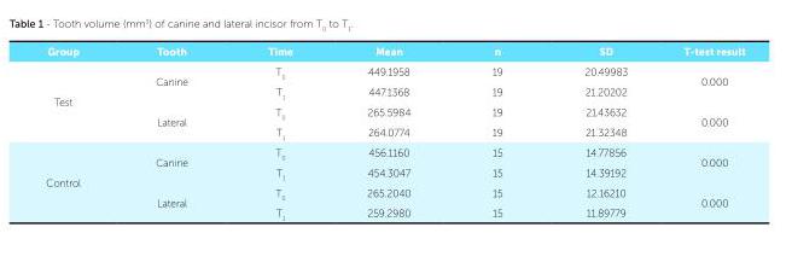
<table><thead><tr><td>Group</td><td>Tooth</td><td>Time</td><td>Mean</td><td>n</td><td>SD</td><td>T-test result</td></tr></thead><tbody><tr><td rowspan="4">Test</td><td rowspan="2">Canine</td><td>T<sub>0</sub></td><td>449.1958</td><td>19</td><td>20.49983</td><td rowspan="2">0.000</td></tr><tr><td>T<sub>1</sub></td><td>447.1368</td><td>19</td><td>21.20202</td></tr><tr><td rowspan="2">Lateral</td><td>T<sub>0</sub></td><td>265.5984</td><td>19</td><td>21.43632</td><td rowspan="2">0.000</td></tr><tr><td>T<sub>1</sub></td><td>264.0774</td><td>19</td><td>21.32348</td></tr><tr><td rowspan="4">Control</td><td rowspan="2">Canine</td><td>T<sub>0</sub></td><td>456.1160</td><td>15</td><td>14.77856</td><td rowspan="2">0.000</td></tr><tr><td>T<sub>1</sub></td><td>454.3047</td><td>15</td><td>14.39192</td></tr><tr><td rowspan="2">Lateral</td><td>T<sub>0</sub></td><td>265.2040</td><td>15</td><td>12.16210</td><td rowspan="2">0.000</td></tr><tr><td>T<sub>1</sub></td><td>259.2980</td><td>15</td><td>11.89779</td></tr></tbody></table>